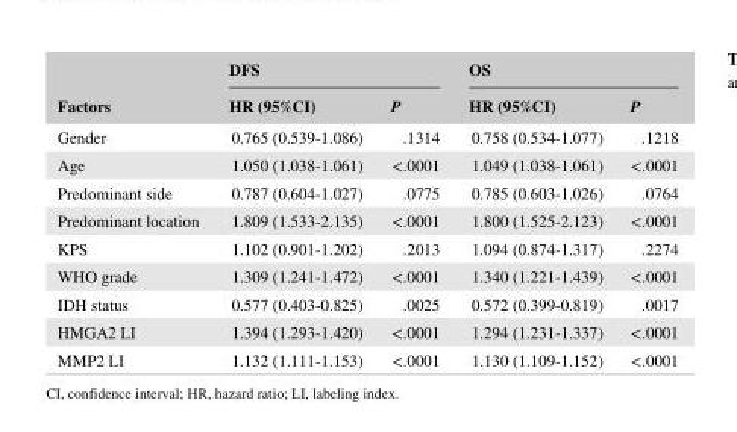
<table><thead><tr><td rowspan="2">Factors</td><td colspan="2">DFS</td><td colspan="2">OS</td></tr><tr><td>HR (95%CI)</td><td>P</td><td>HR (95%CI)</td><td>P</td></tr></thead><tbody><tr><td>Gender</td><td>0.765 (0.539- 1.086)</td><td>.1314</td><td>0.758 (0.534- 1.077)</td><td>.1218</td></tr><tr><td>Age</td><td>1.050 (1.038- 1.061)</td><td>&lt;.0001</td><td>1.049 (1.038- 1.061)</td><td>&lt;.0001</td></tr><tr><td>Predominant side</td><td>0.787 (0.604- 1.027)</td><td>.0775</td><td>0.785 (0.603- 1.026)</td><td>.0764</td></tr><tr><td>Predominant location</td><td>1.809 (1.533- 2.135)</td><td>&lt;.0001</td><td>1.800 (1.525- 2.123)</td><td>&lt;.0001</td></tr><tr><td>KPS</td><td>1.102 (0.901- 1.202)</td><td>.2013</td><td>1.094 (0.874- 1.317)</td><td>.2274</td></tr><tr><td>WHO grade</td><td>1.309 (1.241- 1.472)</td><td>&lt;.0001</td><td>1.340 (1.221- 1.439)</td><td>&lt;.0001</td></tr><tr><td>IDH status</td><td>0.577 (0.403- 0.825)</td><td>.0025</td><td>0.572 (0.399- 0.819)</td><td>.0017</td></tr><tr><td>HMGA2 LI</td><td>1.394 (1.293- 1.420)</td><td>&lt;.0001</td><td>1.294 (1.231- 1.337)</td><td>&lt;.0001</td></tr><tr><td>MMP2 LI</td><td>1.132 (1.111- 1.153)</td><td>&lt;.0001</td><td>1.130 (1.109- 1.152)</td><td>&lt;.0001</td></tr></tbody></table>